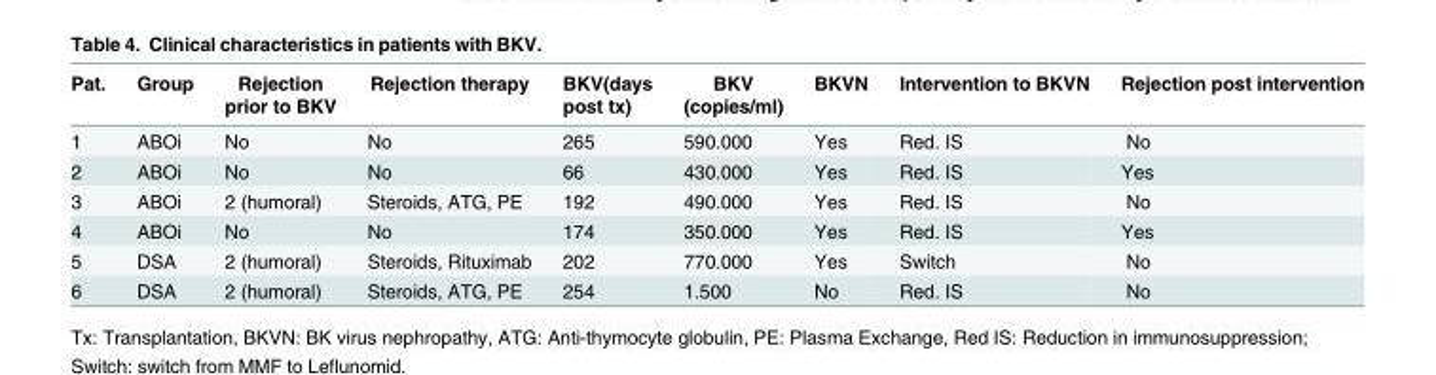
<table><thead><tr><td>Pat.</td><td>Group</td><td>Rejection prior to BKV</td><td>Rejection therapy</td><td>BKV(days post tx)</td><td>BKV (copies/ml)</td><td>BKVN</td><td>Intervention to BKVN</td><td>Rejection post intervention</td></tr></thead><tbody><tr><td>1</td><td>ABOi</td><td>No</td><td>No</td><td>265</td><td>590.000</td><td>Yes</td><td>Red. IS</td><td>No</td></tr><tr><td>2</td><td>ABOi</td><td>No</td><td>No</td><td>66</td><td>430.000</td><td>Yes</td><td>Red. IS</td><td>Yes</td></tr><tr><td>3</td><td>ABOi</td><td>2 (humoral)</td><td>Steroids, ATG, PE</td><td>192</td><td>490.000</td><td>Yes</td><td>Red. IS</td><td>No</td></tr><tr><td>4</td><td>ABOi</td><td>No</td><td>No</td><td>174</td><td>350.000</td><td>Yes</td><td>Red. IS</td><td>Yes</td></tr><tr><td>5</td><td>DSA</td><td>2 (humoral)</td><td>Steroids, Rituximab</td><td>202</td><td>770.000</td><td>Yes</td><td>Switch</td><td>No</td></tr><tr><td>6</td><td>DSA</td><td>2 (humoral)</td><td>Steroids, ATG, PE</td><td>254</td><td>1.500</td><td>No</td><td>Red. IS</td><td>No</td></tr></tbody></table>